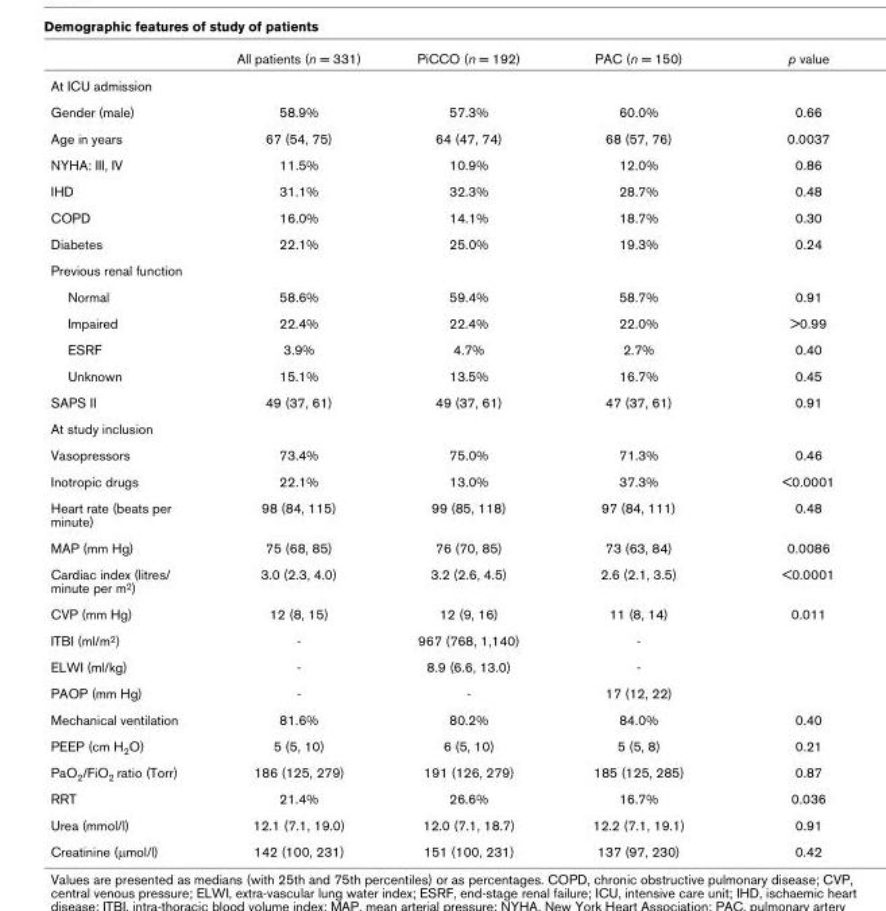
<table><thead><tr><td></td><td>All patients (n = 331)</td><td>PiCCO (n = 192)</td><td>PAC (n = 150)</td><td>p value</td></tr></thead><tbody><tr><td colspan="5">At ICU admission</td></tr><tr><td>Gender (male)</td><td>58.9%</td><td>57.3%</td><td>60.0%</td><td>0.66</td></tr><tr><td>Age in years</td><td>67 (54, 75)</td><td>64 (47, 74)</td><td>68 (57, 76)</td><td>0.0037</td></tr><tr><td>NYHA: III, IV</td><td>11.5%</td><td>10.9%</td><td>12.0%</td><td>0.86</td></tr><tr><td>IHD</td><td>31.1%</td><td>32.3%</td><td>28.7%</td><td>0.48</td></tr><tr><td>COPD</td><td>16.0%</td><td>14.1%</td><td>18.7%</td><td>0.30</td></tr><tr><td>Diabetes</td><td>22.1%</td><td>25.0%</td><td>19.3%</td><td>0.24</td></tr><tr><td colspan="5">Previous renal function</td></tr><tr><td>Normal</td><td>58.6%</td><td>59.4%</td><td>58.7%</td><td>0.91</td></tr><tr><td>Impaired</td><td>22.4%</td><td>22.4%</td><td>22.0%</td><td>&gt;0.99</td></tr><tr><td>ESRF</td><td>3.9%</td><td>4.7%</td><td>2.7%</td><td>0.40</td></tr><tr><td>Unknown</td><td>15.1%</td><td>13.5%</td><td>16.7%</td><td>0.45</td></tr><tr><td>SAPS II</td><td>49 (37, 61)</td><td>49 (37, 61)</td><td>47 (37, 61)</td><td>0.91</td></tr><tr><td colspan="5">At study inclusion</td></tr><tr><td>Vasopressors</td><td>73.4%</td><td>75.0%</td><td>71.3%</td><td>0.46</td></tr><tr><td>Inotropic drugs</td><td>22.1%</td><td>13.0%</td><td>37.3%</td><td>&lt;0.0001</td></tr><tr><td>Heart rate (beats per minute)</td><td>98 (84, 115)</td><td>99 (85, 118)</td><td>97 (84, 111)</td><td>0.48</td></tr><tr><td>MAP (mm Hg)</td><td>75 (68, 85)</td><td>76 (70, 85)</td><td>73 (63, 84)</td><td>0.0086</td></tr><tr><td>Cardiac index (litres/ minute per m2)</td><td>3.0 (2.3, 4.0)</td><td>3.2 (2.6, 4.5)</td><td>2.6 (2.1, 3.5)</td><td>&lt;0.0001</td></tr><tr><td>CVP (mm Hg)</td><td>12 (8, 15)</td><td>12 (9, 16)</td><td>11 (8, 14)</td><td>0.011</td></tr><tr><td>ITBI (ml/m2)</td><td>-</td><td>967 (768, 1,140)</td><td>-</td><td></td></tr><tr><td>ELWI (ml/kg)</td><td>-</td><td>8.9 (6.6, 13.0)</td><td>-</td><td></td></tr><tr><td>PAOP (mm Hg)</td><td>-</td><td>-</td><td>17 (12, 22)</td><td></td></tr><tr><td>Mechanical ventilation</td><td>81.6%</td><td>80.2%</td><td>84.0%</td><td>0.40</td></tr><tr><td>PEEP (cm H2O)</td><td>5 (5, 10)</td><td>6 (5, 10)</td><td>5 (5, 8)</td><td>0.21</td></tr><tr><td>PaO2/FiO2 ratio (Torr)</td><td>186 (125, 279)</td><td>191 (126, 279)</td><td>185 (125, 285)</td><td>0.87</td></tr><tr><td>RRT</td><td>21.4%</td><td>26.6%</td><td>16.7%</td><td>0.036</td></tr><tr><td>Urea (mmol/l)</td><td>12.1 (7.1, 19.0)</td><td>12.0 (7.1, 18.7)</td><td>12.2 (7.1, 19.1)</td><td>0.91</td></tr><tr><td>Creatinine (μmol/l)</td><td>142 (100, 231)</td><td>151 (100, 231)</td><td>137 (97, 230)</td><td>0.42</td></tr></tbody></table>